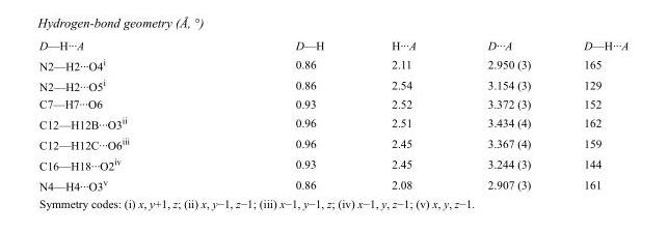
<table><tbody><tr><td>D—H···A</td><td>D—H</td><td>H···A</td><td>D···A</td><td>D—H···A</td></tr><tr><td>N2—H2···O4<sup>i</sup></td><td>0.86</td><td>2.11</td><td>2.950 (3)</td><td>165</td></tr><tr><td>N2—H2···O5<sup>i</sup></td><td>0.86</td><td>2.54</td><td>3.154 (3)</td><td>129</td></tr><tr><td>C7—H7···O6</td><td>0.93</td><td>2.52</td><td>3.372 (3)</td><td>152</td></tr><tr><td>C12—H12B···O3<sup>ii</sup></td><td>0.96</td><td>2.51</td><td>3.434 (4)</td><td>162</td></tr><tr><td>C12—H12C···O6<sup>iii</sup></td><td>0.96</td><td>2.45</td><td>3.367 (4)</td><td>159</td></tr><tr><td>C16—H18···O2<sup>iv</sup></td><td>0.93</td><td>2.45</td><td>3.244 (3)</td><td>144</td></tr><tr><td>N4—H4···O3<sup>v</sup></td><td>0.86</td><td>2.08</td><td>2.907 (3)</td><td>161</td></tr></tbody></table>